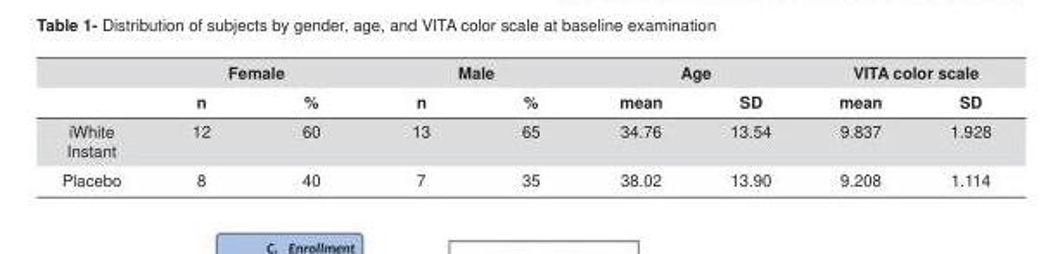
<table><thead><tr><td rowspan="2"></td><td colspan="2">Female</td><td colspan="2">Male</td><td colspan="2">Age</td><td colspan="2">VITA color scale</td></tr><tr><td>n</td><td>%</td><td>n</td><td>%</td><td>mean</td><td>SD</td><td>mean</td><td>SD</td></tr></thead><tbody><tr><td>iWhite Instant</td><td>12</td><td>60</td><td>13</td><td>65</td><td>34.76</td><td>13.54</td><td>9.837</td><td>1.928</td></tr><tr><td>Placebo</td><td>8</td><td>40</td><td>7</td><td>35</td><td>38.02</td><td>13.90</td><td>9.208</td><td>1.114</td></tr></tbody></table>